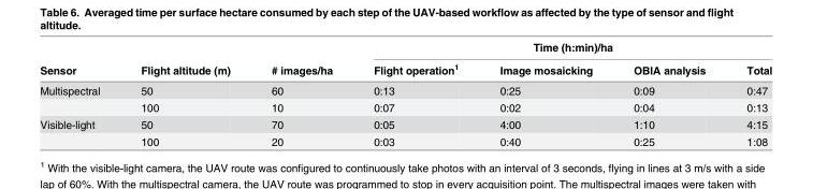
<table><thead><tr><td rowspan="2">Sensor</td><td rowspan="2">Flight altitude (m)</td><td rowspan="2"># images/ha</td><td colspan="4">Time (h:min)/ha</td></tr><tr><td>Flight operation<sup>1</sup></td><td>Image mosaicking</td><td>OBIA analysis</td><td>Total</td></tr></thead><tbody><tr><td rowspan="2">Multispectral</td><td>50</td><td>60</td><td>0:13</td><td>0:25</td><td>0:09</td><td>0:47</td></tr><tr><td>100</td><td>10</td><td>0:07</td><td>0:02</td><td>0:04</td><td>0:13</td></tr><tr><td rowspan="2">Visible-light</td><td>50</td><td>70</td><td>0:05</td><td>4:00</td><td>1:10</td><td>4:15</td></tr><tr><td>100</td><td>20</td><td>0:03</td><td>0:40</td><td>0:25</td><td>1:08</td></tr></tbody></table>